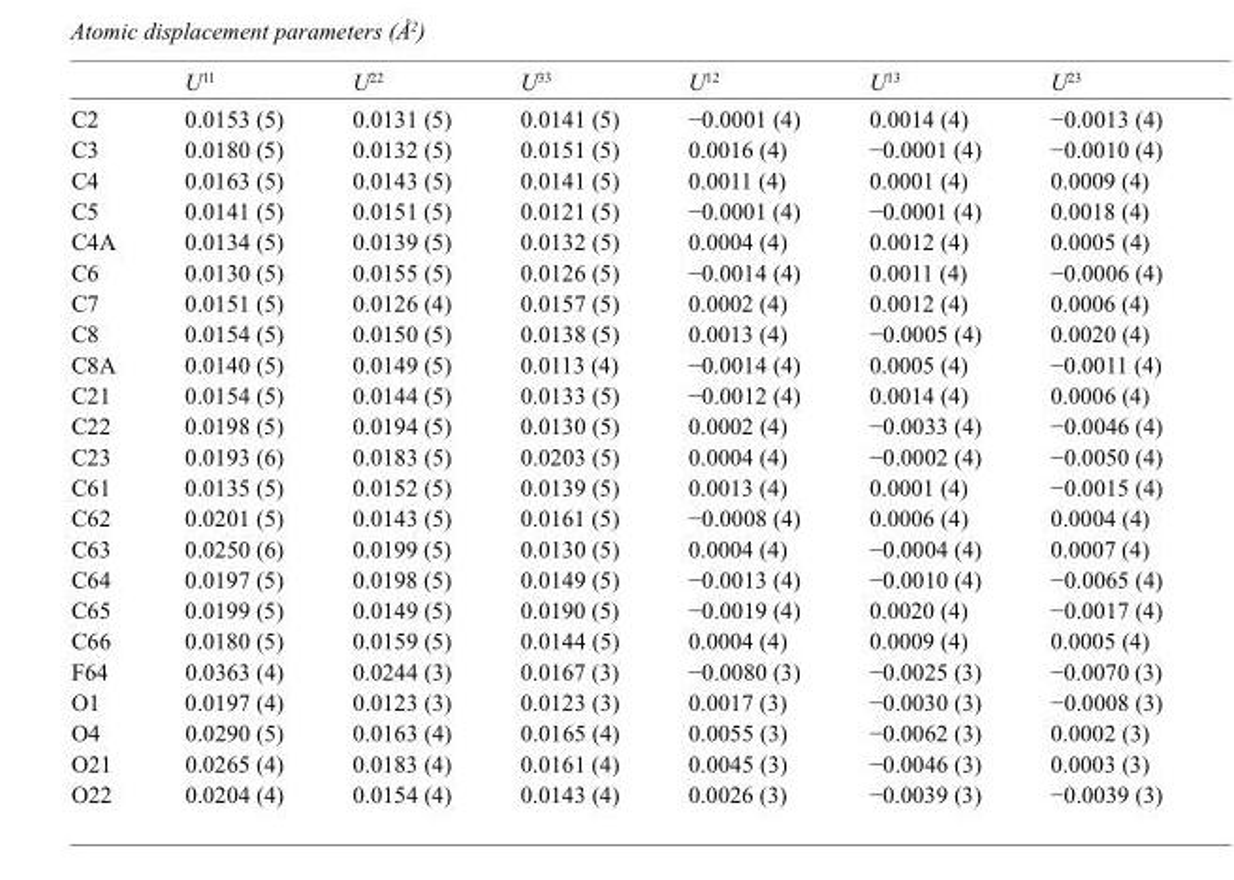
<table><thead><tr><td></td><td>U<sup>11</sup></td><td>U<sup>22</sup></td><td>U<sup>33</sup></td><td>U<sup>12</sup></td><td>U<sup>13</sup></td><td>U<sup>23</sup></td></tr></thead><tbody><tr><td>C2</td><td>0.0153 (5)</td><td>0.0131 (5)</td><td>0.0141 (5)</td><td>−0.0001 (4)</td><td>0.0014 (4)</td><td>−0.0013 (4)</td></tr><tr><td>C3</td><td>0.0180 (5)</td><td>0.0132 (5)</td><td>0.0151 (5)</td><td>0.0016 (4)</td><td>−0.0001 (4)</td><td>−0.0010 (4)</td></tr><tr><td>C4</td><td>0.0163 (5)</td><td>0.0143 (5)</td><td>0.0141 (5)</td><td>0.0011 (4)</td><td>0.0001 (4)</td><td>0.0009 (4)</td></tr><tr><td>C5</td><td>0.0141 (5)</td><td>0.0151 (5)</td><td>0.0121 (5)</td><td>−0.0001 (4)</td><td>−0.0001 (4)</td><td>0.0018 (4)</td></tr><tr><td>C4A</td><td>0.0134 (5)</td><td>0.0139 (5)</td><td>0.0132 (5)</td><td>0.0004 (4)</td><td>0.0012 (4)</td><td>0.0005 (4)</td></tr><tr><td>C6</td><td>0.0130 (5)</td><td>0.0155 (5)</td><td>0.0126 (5)</td><td>−0.0014 (4)</td><td>0.0011 (4)</td><td>−0.0006 (4)</td></tr><tr><td>C7</td><td>0.0151 (5)</td><td>0.0126 (4)</td><td>0.0157 (5)</td><td>0.0002 (4)</td><td>0.0012 (4)</td><td>0.0006 (4)</td></tr><tr><td>C8</td><td>0.0154 (5)</td><td>0.0150 (5)</td><td>0.0138 (5)</td><td>0.0013 (4)</td><td>−0.0005 (4)</td><td>0.0020 (4)</td></tr><tr><td>C8A</td><td>0.0140 (5)</td><td>0.0149 (5)</td><td>0.0113 (4)</td><td>−0.0014 (4)</td><td>0.0005 (4)</td><td>−0.0011 (4)</td></tr><tr><td>C21</td><td>0.0154 (5)</td><td>0.0144 (5)</td><td>0.0133 (5)</td><td>−0.0012 (4)</td><td>0.0014 (4)</td><td>0.0006 (4)</td></tr><tr><td>C22</td><td>0.0198 (5)</td><td>0.0194 (5)</td><td>0.0130 (5)</td><td>0.0002 (4)</td><td>−0.0033 (4)</td><td>−0.0046 (4)</td></tr><tr><td>C23</td><td>0.0193 (6)</td><td>0.0183 (5)</td><td>0.0203 (5)</td><td>0.0004 (4)</td><td>−0.0002 (4)</td><td>−0.0050 (4)</td></tr><tr><td>C61</td><td>0.0135 (5)</td><td>0.0152 (5)</td><td>0.0139 (5)</td><td>0.0013 (4)</td><td>0.0001 (4)</td><td>−0.0015 (4)</td></tr><tr><td>C62</td><td>0.0201 (5)</td><td>0.0143 (5)</td><td>0.0161 (5)</td><td>−0.0008 (4)</td><td>0.0006 (4)</td><td>0.0004 (4)</td></tr><tr><td>C63</td><td>0.0250 (6)</td><td>0.0199 (5)</td><td>0.0130 (5)</td><td>0.0004 (4)</td><td>−0.0004 (4)</td><td>0.0007 (4)</td></tr><tr><td>C64</td><td>0.0197 (5)</td><td>0.0198 (5)</td><td>0.0149 (5)</td><td>−0.0013 (4)</td><td>−0.0010 (4)</td><td>−0.0065 (4)</td></tr><tr><td>C65</td><td>0.0199 (5)</td><td>0.0149 (5)</td><td>0.0190 (5)</td><td>−0.0019 (4)</td><td>0.0020 (4)</td><td>−0.0017 (4)</td></tr><tr><td>C66</td><td>0.0180 (5)</td><td>0.0159 (5)</td><td>0.0144 (5)</td><td>0.0004 (4)</td><td>0.0009 (4)</td><td>0.0005 (4)</td></tr><tr><td>F64</td><td>0.0363 (4)</td><td>0.0244 (3)</td><td>0.0167 (3)</td><td>−0.0080 (3)</td><td>−0.0025 (3)</td><td>−0.0070 (3)</td></tr><tr><td>O1</td><td>0.0197 (4)</td><td>0.0123 (3)</td><td>0.0123 (3)</td><td>0.0017 (3)</td><td>−0.0030 (3)</td><td>−0.0008 (3)</td></tr><tr><td>O4</td><td>0.0290 (5)</td><td>0.0163 (4)</td><td>0.0165 (4)</td><td>0.0055 (3)</td><td>−0.0062 (3)</td><td>0.0002 (3)</td></tr><tr><td>O21</td><td>0.0265 (4)</td><td>0.0183 (4)</td><td>0.0161 (4)</td><td>0.0045 (3)</td><td>−0.0046 (3)</td><td>0.0003 (3)</td></tr><tr><td>O22</td><td>0.0204 (4)</td><td>0.0154 (4)</td><td>0.0143 (4)</td><td>0.0026 (3)</td><td>−0.0039 (3)</td><td>−0.0039 (3)</td></tr></tbody></table>